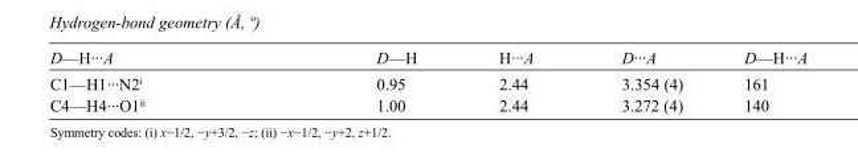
<table><tbody><tr><td>D—H···A</td><td>D—H</td><td>H···A</td><td>D···A</td><td>D—H···A</td></tr><tr><td>C1—H1···N2<sup>i</sup></td><td>0.95</td><td>2.44</td><td>3.354 (4)</td><td>161</td></tr><tr><td>C4—H4···O1<sup>ii</sup></td><td>1.00</td><td>2.44</td><td>3.272 (4)</td><td>140</td></tr></tbody></table>